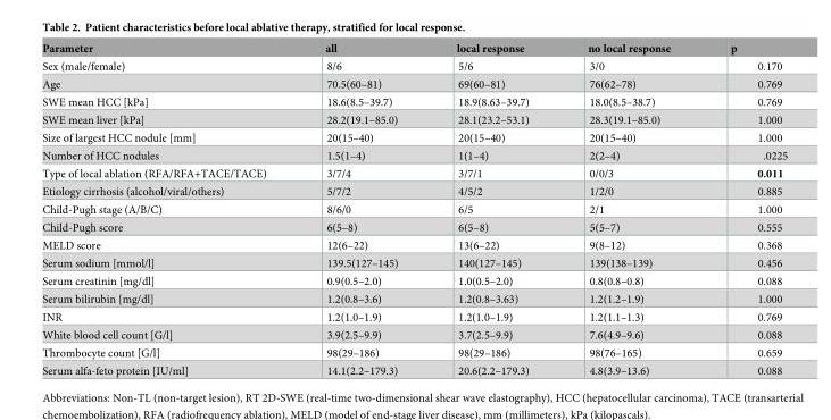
<table><thead><tr><td>Parameter</td><td>all</td><td>local response</td><td>no local response</td><td>p</td></tr></thead><tbody><tr><td>Sex (male/female)</td><td>8/6</td><td>5/6</td><td>3/0</td><td>0.170</td></tr><tr><td>Age</td><td>70.5(60–81)</td><td>69(60–81)</td><td>76(62–78)</td><td>0.769</td></tr><tr><td>SWE mean HCC [kPa]</td><td>18.6(8.5–39.7)</td><td>18.9(8.63–39.7)</td><td>18.0(8.5–38.7)</td><td>0.769</td></tr><tr><td>SWE mean liver [kPa]</td><td>28.2(19.1–85.0)</td><td>28.1(23.2–53.1)</td><td>28.3(19.1–85.0)</td><td>1.000</td></tr><tr><td>Size of largest HCC nodule [mm]</td><td>20(15–40)</td><td>20(15–40)</td><td>20(15–40)</td><td>1.000</td></tr><tr><td>Number of HCC nodules</td><td>1.5(1–4)</td><td>1(1–4)</td><td>2(2–4)</td><td>.0225</td></tr><tr><td>Type of local ablation (RFA/RFA+TACE/TACE)</td><td>3/7/4</td><td>3/7/1</td><td>0/0/3</td><td>0.011</td></tr><tr><td>Etiology cirrhosis (alcohol/viral/others)</td><td>5/7/2</td><td>4/5/2</td><td>1/2/0</td><td>0.885</td></tr><tr><td>Child-Pugh stage (A/B/C)</td><td>8/6/0</td><td>6/5</td><td>2/1</td><td>1.000</td></tr><tr><td>Child-Pugh score</td><td>6(5–8)</td><td>6(5–8)</td><td>5(5–7)</td><td>0.555</td></tr><tr><td>MELD score</td><td>12(6–22)</td><td>13(6–22)</td><td>9(8–12)</td><td>0.368</td></tr><tr><td>Serum sodium [mmol/l]</td><td>139.5(127–145)</td><td>140(127–145)</td><td>139(138–139)</td><td>0.456</td></tr><tr><td>Serum creatinin [mg/dl]</td><td>0.9(0.5–2.0)</td><td>1.0(0.5–2.0)</td><td>0.8(0.8–0.8)</td><td>0.088</td></tr><tr><td>Serum bilirubin [mg/dl]</td><td>1.2(0.8–3.6)</td><td>1.2(0.8–3.63)</td><td>1.2(1.2–1.9)</td><td>1.000</td></tr><tr><td>INR</td><td>1.2(1.0–1.9)</td><td>1.2(1.0–1.9)</td><td>1.2(1.1–1.3)</td><td>0.769</td></tr><tr><td>White blood cell count [G/l]</td><td>3.9(2.5–9.9)</td><td>3.7(2.5–9.9)</td><td>7.6(4.9–9.6)</td><td>0.088</td></tr><tr><td>Thrombocyte count [G/l]</td><td>98(29–186)</td><td>98(29–186)</td><td>98(76–165)</td><td>0.659</td></tr><tr><td>Serum alfa-feto protein [IU/ml]</td><td>14.1(2.2–179.3)</td><td>20.6(2.2–179.3)</td><td>4.8(3.9–13.6)</td><td>0.088</td></tr></tbody></table>